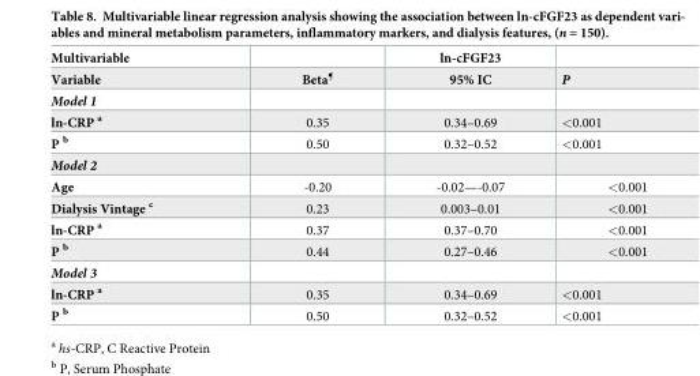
<table><thead><tr><td>Multivariable</td><td></td><td>ln-cFGF23</td><td></td></tr></thead><tbody><tr><td>Variable</td><td>Beta<sup>¶</sup></td><td>95% IC</td><td>P</td></tr><tr><td colspan="4">Model 1</td></tr><tr><td>ln-CRP <sup>a</sup></td><td>0.35</td><td>0.34–0.69</td><td>&lt;0.001</td></tr><tr><td>P <sup>b</sup></td><td>0.50</td><td>0.32–0.52</td><td>&lt;0.001</td></tr><tr><td colspan="4">Model 2</td></tr><tr><td>Age</td><td>-0.20</td><td>-0.02—-0.07</td><td>&lt;0.001</td></tr><tr><td>Dialysis Vintage <sup>c</sup></td><td>0.23</td><td>0.003–0.01</td><td>&lt;0.001</td></tr><tr><td>ln-CRP <sup>a</sup></td><td>0.37</td><td>0.37–0.70</td><td>&lt;0.001</td></tr><tr><td>P <sup>b</sup></td><td>0.44</td><td>0.27–0.46</td><td>&lt;0.001</td></tr><tr><td colspan="4">Model 3</td></tr><tr><td>ln-CRP <sup>a</sup></td><td>0.35</td><td>0.34–0.69</td><td>&lt;0.001</td></tr><tr><td>P <sup>b</sup></td><td>0.50</td><td>0.32–0.52</td><td>&lt;0.001</td></tr></tbody></table>